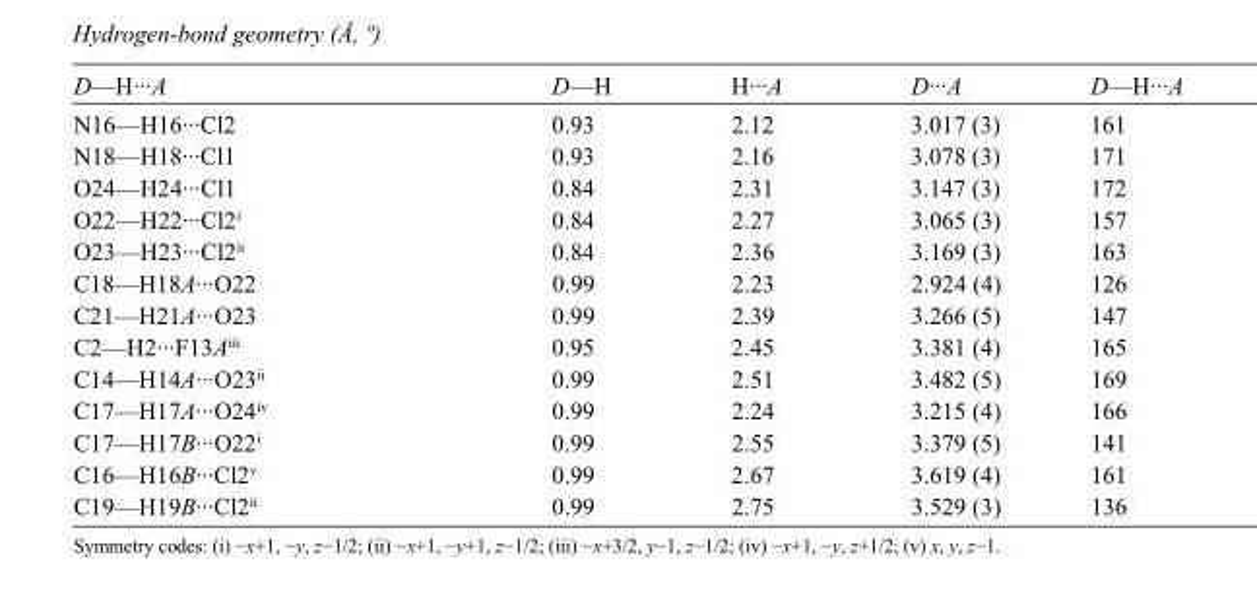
<table><tbody><tr><td>D—H···A</td><td>D—H</td><td>H···A</td><td>D···A</td><td>D—H···A</td></tr><tr><td>N16—H16···Cl2</td><td>0.93</td><td>2.12</td><td>3.017 (3)</td><td>161</td></tr><tr><td>N18—H18···Cl1</td><td>0.93</td><td>2.16</td><td>3.078 (3)</td><td>171</td></tr><tr><td>O24—H24···Cl1</td><td>0.84</td><td>2.31</td><td>3.147 (3)</td><td>172</td></tr><tr><td>O22—H22···Cl2<sup>i</sup></td><td>0.84</td><td>2.27</td><td>3.065 (3)</td><td>157</td></tr><tr><td>O23—H23···Cl2<sup>ii</sup></td><td>0.84</td><td>2.36</td><td>3.169 (3)</td><td>163</td></tr><tr><td>C18—H18A···O22</td><td>0.99</td><td>2.23</td><td>2.924 (4)</td><td>126</td></tr><tr><td>C21—H21A···O23</td><td>0.99</td><td>2.39</td><td>3.266 (5)</td><td>147</td></tr><tr><td>C2—H2···F13A<sup>iii</sup></td><td>0.95</td><td>2.45</td><td>3.381 (4)</td><td>165</td></tr><tr><td>C14—H14A···O23<sup>ii</sup></td><td>0.99</td><td>2.51</td><td>3.482 (5)</td><td>169</td></tr><tr><td>C17—H17A···O24<sup>iv</sup></td><td>0.99</td><td>2.24</td><td>3.215 (4)</td><td>166</td></tr><tr><td>C17—H17B···O22<sup>i</sup></td><td>0.99</td><td>2.55</td><td>3.379 (5)</td><td>141</td></tr><tr><td>C16—H16B···Cl2<sup>v</sup></td><td>0.99</td><td>2.67</td><td>3.619 (4)</td><td>161</td></tr><tr><td>C19—H19B···Cl2<sup>ii</sup></td><td>0.99</td><td>2.75</td><td>3.529 (3)</td><td>136</td></tr></tbody></table>